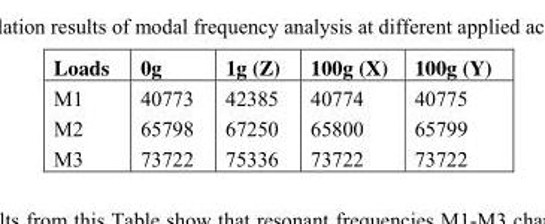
<table><thead><tr><td>Loads</td><td>0g</td><td>1g (Z)</td><td>100g (X)</td><td>100g (Y)</td></tr></thead><tbody><tr><td>M1</td><td>40773</td><td>42385</td><td>40774</td><td>40775</td></tr><tr><td>M2</td><td>65798</td><td>67250</td><td>65800</td><td>65799</td></tr><tr><td>M3</td><td>73722</td><td>75336</td><td>73722</td><td>73722</td></tr></tbody></table>